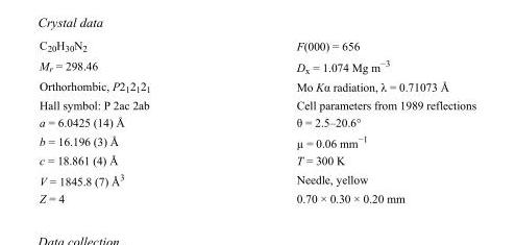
<table><tbody><tr><td>C<sub>20</sub>H<sub>30</sub>N<sub>2</sub></td><td>F(000) = 656</td></tr><tr><td>M<sub>r</sub> = 298.46</td><td>D<sub>x</sub> = 1.074 Mg m<sup>−3</sup></td></tr><tr><td>Orthorhombic, P2<sub>1</sub>2<sub>1</sub>2<sub>1</sub></td><td>Mo Kα radiation, λ = 0.71073 Å</td></tr><tr><td>Hall symbol: P 2ac 2ab</td><td>Cell parameters from 1989 reflections</td></tr><tr><td>a = 6.0425 (14) Å</td><td>θ = 2.5–20.6°</td></tr><tr><td>b = 16.196 (3) Å</td><td>µ = 0.06 mm<sup>−1</sup></td></tr><tr><td>c = 18.861 (4) Å</td><td>T = 300 K</td></tr><tr><td>V = 1845.8 (7) Å<sup>3</sup></td><td>Needle, yellow</td></tr><tr><td>Z = 4</td><td>0.70 × 0.30 × 0.20 mm</td></tr></tbody></table>